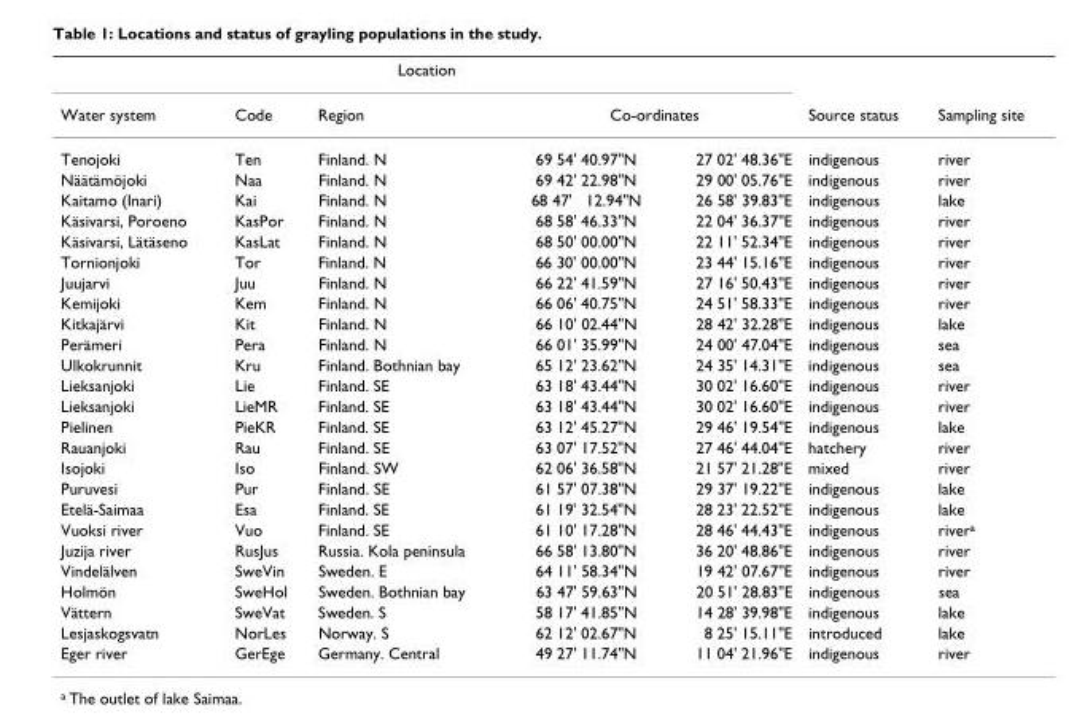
<table><thead><tr><td colspan="5">Location</td><td rowspan="3">Source status indigenous</td><td rowspan="3">Sampling site river</td></tr><tr><td rowspan="2">Water system Tenojoki</td><td rowspan="2">Code Ten</td><td rowspan="2">Region Finland. N</td><td colspan="2">Co-ordinates</td></tr><tr><td>69 54&#x27; 40.97&quot;N</td><td>27 02&#x27; 48.36&quot;E</td></tr></thead><tbody><tr><td>Näätämöjoki</td><td>Naa</td><td>Finland. N</td><td>69 42&#x27; 22.98&quot;N</td><td>29 00&#x27; 05.76&quot;E</td><td>indigenous</td><td>river</td></tr><tr><td>Kaitamo (Inari)</td><td>Kai</td><td>Finland. N</td><td>68 47&#x27; 12.94&quot;N</td><td>26 58&#x27; 39.83&quot;E</td><td>indigenous</td><td>lake</td></tr><tr><td>Käsivarsi, Poroeno</td><td>KasPor</td><td>Finland. N</td><td>68 58&#x27; 46.33&quot;N</td><td>22 04&#x27; 36.37&quot;E</td><td>indigenous</td><td>river</td></tr><tr><td>Käsivarsi, Lätäseno</td><td>KasLat</td><td>Finland. N</td><td>68 50&#x27; 00.00&quot;N</td><td>22 11&#x27; 52.34&quot;E</td><td>indigenous</td><td>river</td></tr><tr><td>Tornionjoki</td><td>Tor</td><td>Finland. N</td><td>66 30&#x27; 00.00&quot;N</td><td>23 44&#x27; 15.16&quot;E</td><td>indigenous</td><td>river</td></tr><tr><td>Juujarvi</td><td>Juu</td><td>Finland. N</td><td>66 22&#x27; 41.59&quot;N</td><td>27 16&#x27; 50.43&quot;E</td><td>indigenous</td><td>river</td></tr><tr><td>Kemijoki</td><td>Kem</td><td>Finland. N</td><td>66 06&#x27; 40.75&quot;N</td><td>24 51&#x27; 58.33&quot;E</td><td>indigenous</td><td>river</td></tr><tr><td>Kitkajärvi</td><td>Kit</td><td>Finland. N</td><td>66 10&#x27; 02.44&quot;N</td><td>28 42&#x27; 32.28&quot;E</td><td>indigenous</td><td>lake</td></tr><tr><td>Perämeri</td><td>Pera</td><td>Finland. N</td><td>66 01&#x27; 35.99&quot;N</td><td>24 00&#x27; 47.04&quot;E</td><td>indigenous</td><td>sea</td></tr><tr><td>Ulkokrunnit</td><td>Kru</td><td>Finland. Bothnian bay</td><td>65 12&#x27; 23.62&quot;N</td><td>24 35&#x27; 14.31&quot;E</td><td>indigenous</td><td>sea</td></tr><tr><td>Lieksanjoki</td><td>Lie</td><td>Finland. SE</td><td>63 18&#x27; 43.44&quot;N</td><td>30 02&#x27; 16.60&quot;E</td><td>indigenous</td><td>river</td></tr><tr><td>Lieksanjoki</td><td>LieMR</td><td>Finland. SE</td><td>63 18&#x27; 43.44&quot;N</td><td>30 02&#x27; 16.60&quot;E</td><td>indigenous</td><td>river</td></tr><tr><td>Pielinen</td><td>PieKR</td><td>Finland. SE</td><td>63 12&#x27; 45.27&quot;N</td><td>29 46&#x27; 19.54&quot;E</td><td>indigenous</td><td>lake</td></tr><tr><td>Rauanjoki</td><td>Rau</td><td>Finland. SE</td><td>63 07&#x27; 17.52&quot;N</td><td>27 46&#x27; 44.04&quot;E</td><td>hatchery</td><td>river</td></tr><tr><td>Isojoki</td><td>Iso</td><td>Finland. SW</td><td>62 06&#x27; 36.58&quot;N</td><td>21 57&#x27; 21.28&quot;E</td><td>mixed</td><td>river</td></tr><tr><td>Puruvesi</td><td>Pur</td><td>Finland. SE</td><td>61 57&#x27; 07.38&quot;N</td><td>29 37&#x27; 19.22&quot;E</td><td>indigenous</td><td>lake</td></tr><tr><td>Etelä-Saimaa</td><td>Esa</td><td>Finland. SE</td><td>61 19&#x27; 32.54&quot;N</td><td>28 23&#x27; 22.52&quot;E</td><td>indigenous</td><td>lake</td></tr><tr><td>Vuoksi river</td><td>Vuo</td><td>Finland. SE</td><td>61 10&#x27; 17.28&quot;N</td><td>28 46&#x27; 44.43&quot;E</td><td>indigenous</td><td>river<sup>a</sup></td></tr><tr><td>Juzija river</td><td>RusJus</td><td>Russia. Kola peninsula</td><td>66 58&#x27; 13.80&quot;N</td><td>36 20&#x27; 48.86&quot;E</td><td>indigenous</td><td>river</td></tr><tr><td>Vindelälven</td><td>SweVin</td><td>Sweden. E</td><td>64 11&#x27; 58.34&quot;N</td><td>19 42&#x27; 07.67&quot;E</td><td>indigenous</td><td>river</td></tr><tr><td>Holmön</td><td>SweHol</td><td>Sweden. Bothnian bay</td><td>63 47&#x27; 59.63&quot;N</td><td>20 51&#x27; 28.83&quot;E</td><td>indigenous</td><td>sea</td></tr><tr><td>Vättern</td><td>SweVat</td><td>Sweden. S</td><td>58 17&#x27; 41.85&quot;N</td><td>14 28&#x27; 39.98&quot;E</td><td>indigenous</td><td>lake</td></tr><tr><td>Lesjaskogsvatn</td><td>NorLes</td><td>Norway. S</td><td>62 12&#x27; 02.67&quot;N</td><td>8 25&#x27; 15.11&quot;E</td><td>introduced</td><td>lake</td></tr><tr><td>Eger river</td><td>GerEge</td><td>Germany. Central</td><td>49 27&#x27; 11.74&quot;N</td><td>11 04&#x27; 21.96&quot;E</td><td>indigenous</td><td>river</td></tr></tbody></table>